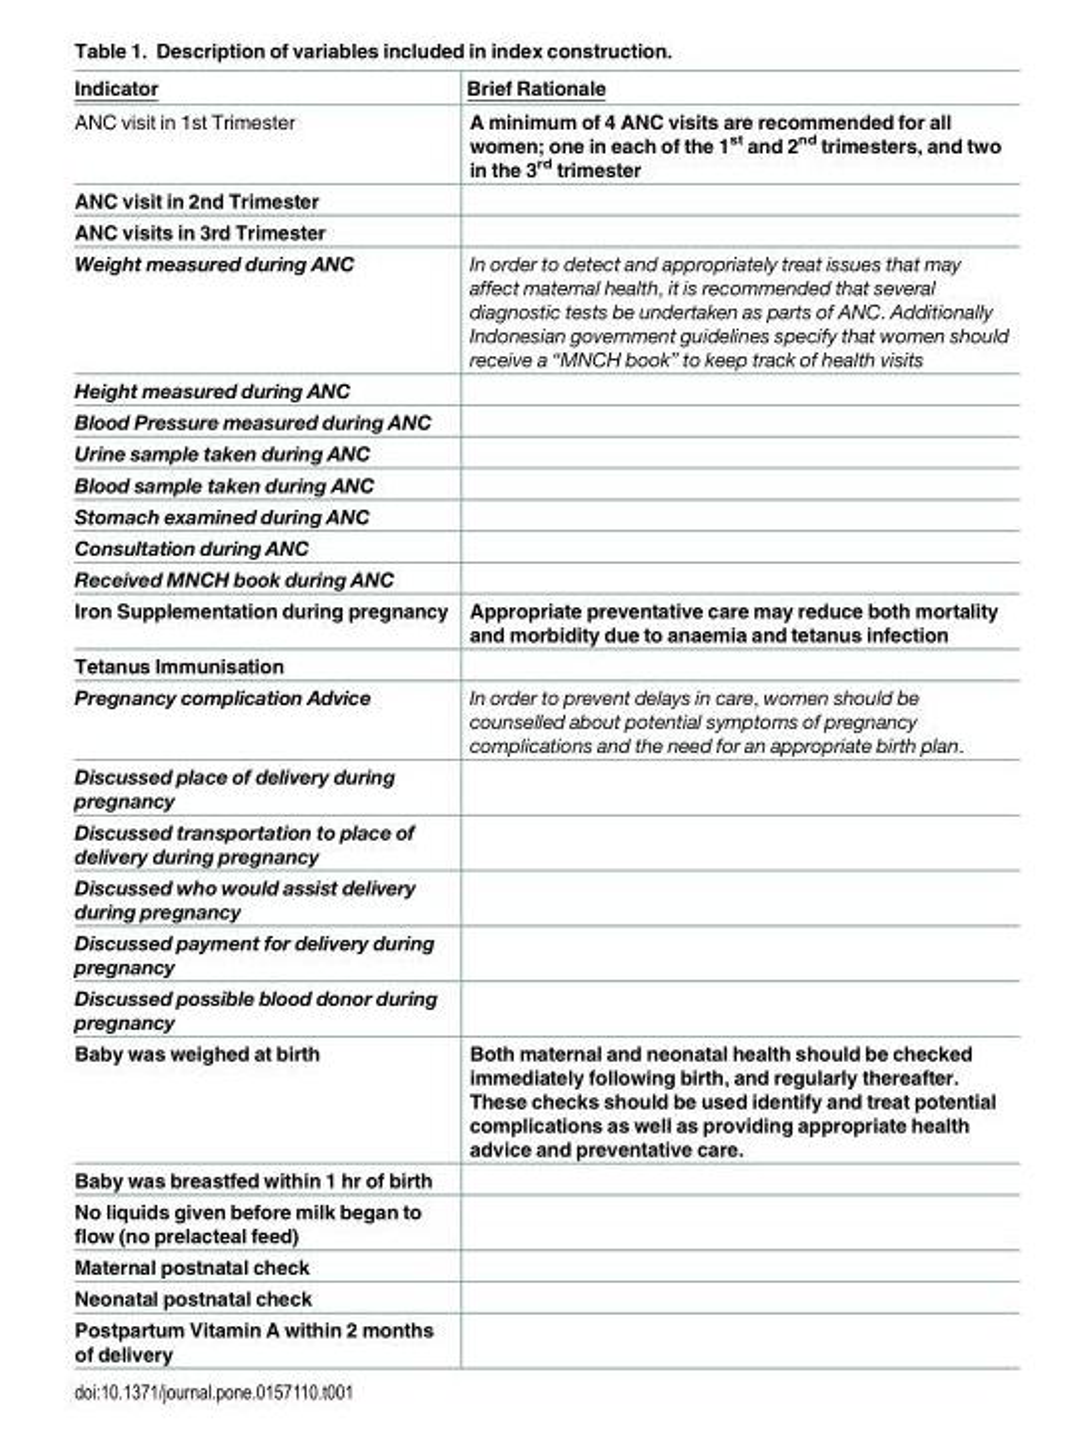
<table><thead><tr><td>Indicator</td><td>Brief Rationale</td></tr></thead><tbody><tr><td>ANC visit in 1st Trimester</td><td>A minimum of 4 ANC visits are recommended for all women; one in each of the 1<sup>st</sup> and 2<sup>nd</sup> trimesters, and two in the 3<sup>rd</sup> trimester</td></tr><tr><td colspan="2">ANC visit in 2nd Trimester</td></tr><tr><td colspan="2">ANC visits in 3rd Trimester</td></tr><tr><td>Weight measured during ANC</td><td>In order to detect and appropriately treat issues that may affect maternal health, it is recommended that several diagnostic tests be undertaken as parts of ANC. Additionally Indonesian government guidelines specify that women should receive a “MNCH book” to keep track of health visits</td></tr><tr><td colspan="2">Height measured during ANC</td></tr><tr><td colspan="2">Blood Pressure measured during ANC</td></tr><tr><td colspan="2">Urine sample taken during ANC</td></tr><tr><td colspan="2">Blood sample taken during ANC</td></tr><tr><td colspan="2">Stomach examined during ANC</td></tr><tr><td colspan="2">Consultation during ANC</td></tr><tr><td colspan="2">Received MNCH book during ANC</td></tr><tr><td>Iron Supplementation during pregnancy</td><td>Appropriate preventative care may reduce both mortality and morbidity due to anaemia and tetanus infection</td></tr><tr><td colspan="2">Tetanus Immunisation</td></tr><tr><td>Pregnancy complication Advice</td><td>In order to prevent delays in care, women should be counselled about potential symptoms of pregnancy complications and the need for an appropriate birth plan.</td></tr><tr><td colspan="2">Discussed place of delivery during pregnancy</td></tr><tr><td colspan="2">Discussed transportation to place of delivery during pregnancy</td></tr><tr><td colspan="2">Discussed who would assist delivery during pregnancy</td></tr><tr><td colspan="2">Discussed payment for delivery during pregnancy</td></tr><tr><td colspan="2">Discussed possible blood donor during pregnancy</td></tr><tr><td>Baby was weighed at birth</td><td>Both maternal and neonatal health should be checked immediately following birth, and regularly thereafter. These checks should be used identify and treat potential complications as well as providing appropriate health advice and preventative care.</td></tr><tr><td colspan="2">Baby was breastfed within 1 hr of birth</td></tr><tr><td colspan="2">No liquids given before milk began to flow (no prelacteal feed)</td></tr><tr><td colspan="2">Maternal postnatal check</td></tr><tr><td colspan="2">Neonatal postnatal check</td></tr><tr><td>Postpartum Vitamin A within 2 months of delivery</td><td></td></tr></tbody></table>